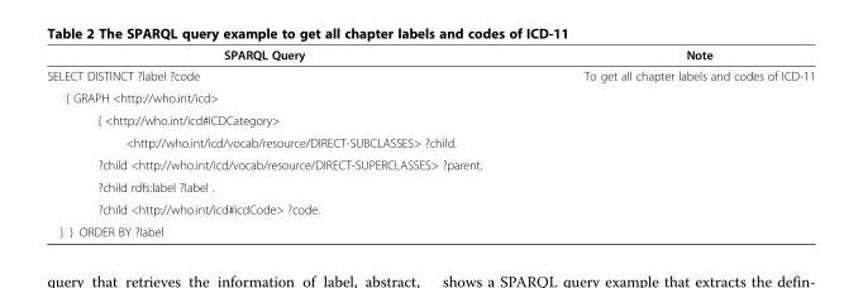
<table><thead><tr><td>SPARQL Query</td><td>Note</td></tr></thead><tbody><tr><td>SELECT DISTINCT ?label ?code</td><td rowspan="8">To get all chapter labels and codes of ICD-11</td></tr><tr><td>{ GRAPH &lt;http://who.int/icd&gt;</td></tr><tr><td>{ &lt;http://who.int/icd#ICDCategory&gt;</td></tr><tr><td>&lt;http://who.int/icd/vocab/resource/DIRECT-SUBCLASSES&gt; ?child.</td></tr><tr><td>?child &lt;http://who.int/icd/vocab/resource/DIRECT-SUPERCLASSES&gt; ?parent.</td></tr><tr><td>?child rdfs:label ?label .</td></tr><tr><td>?child &lt;http://who.int/icd#icdCode&gt; ?code.</td></tr><tr><td>} } ORDER BY ?label</td></tr></tbody></table>